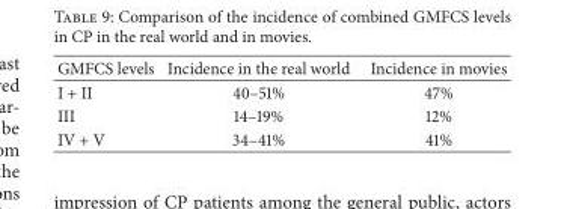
<table><thead><tr><td>GMFCS levels</td><td>Incidence in the real world</td><td>Incidence in movies</td></tr></thead><tbody><tr><td>I + II</td><td>40–51%</td><td>47%</td></tr><tr><td>III</td><td>14–19%</td><td>12%</td></tr><tr><td>IV + V</td><td>34–41%</td><td>41%</td></tr></tbody></table>